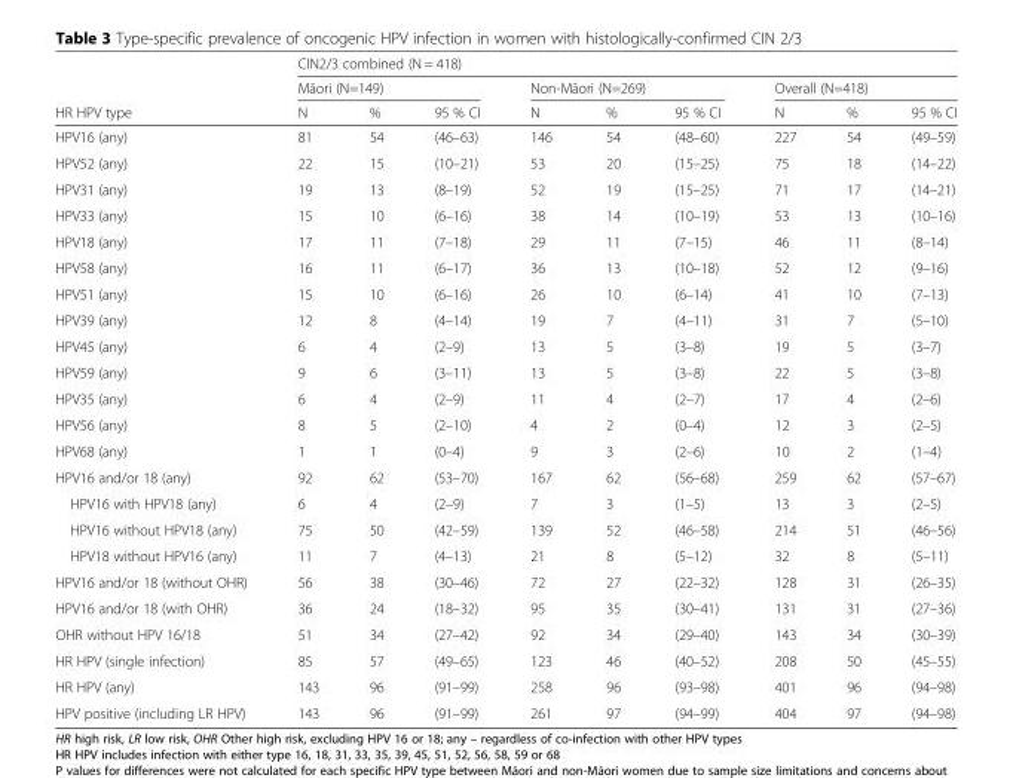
<table><thead><tr><td rowspan="3">HR HPV type</td><td colspan="9">CIN2/3 combined (N = 418)</td></tr><tr><td colspan="3">Māori (N=149)</td><td colspan="3">Non-Māori (N=269)</td><td colspan="3">Overall (N=418)</td></tr><tr><td>N</td><td>%</td><td>95 % CI</td><td>N</td><td>%</td><td>95 % CI</td><td>N</td><td>%</td><td>95 % CI</td></tr></thead><tbody><tr><td>HPV16 (any)</td><td>81</td><td>54</td><td>(46–63)</td><td>146</td><td>54</td><td>(48–60)</td><td>227</td><td>54</td><td>(49–59)</td></tr><tr><td>HPV52 (any)</td><td>22</td><td>15</td><td>(10–21)</td><td>53</td><td>20</td><td>(15–25)</td><td>75</td><td>18</td><td>(14–22)</td></tr><tr><td>HPV31 (any)</td><td>19</td><td>13</td><td>(8–19)</td><td>52</td><td>19</td><td>(15–25)</td><td>71</td><td>17</td><td>(14–21)</td></tr><tr><td>HPV33 (any)</td><td>15</td><td>10</td><td>(6–16)</td><td>38</td><td>14</td><td>(10–19)</td><td>53</td><td>13</td><td>(10–16)</td></tr><tr><td>HPV18 (any)</td><td>17</td><td>11</td><td>(7–18)</td><td>29</td><td>11</td><td>(7–15)</td><td>46</td><td>11</td><td>(8–14)</td></tr><tr><td>HPV58 (any)</td><td>16</td><td>11</td><td>(6–17)</td><td>36</td><td>13</td><td>(10–18)</td><td>52</td><td>12</td><td>(9–16)</td></tr><tr><td>HPV51 (any)</td><td>15</td><td>10</td><td>(6–16)</td><td>26</td><td>10</td><td>(6–14)</td><td>41</td><td>10</td><td>(7–13)</td></tr><tr><td>HPV39 (any)</td><td>12</td><td>8</td><td>(4–14)</td><td>19</td><td>7</td><td>(4–11)</td><td>31</td><td>7</td><td>(5–10)</td></tr><tr><td>HPV45 (any)</td><td>6</td><td>4</td><td>(2–9)</td><td>13</td><td>5</td><td>(3–8)</td><td>19</td><td>5</td><td>(3–7)</td></tr><tr><td>HPV59 (any)</td><td>9</td><td>6</td><td>(3–11)</td><td>13</td><td>5</td><td>(3–8)</td><td>22</td><td>5</td><td>(3–8)</td></tr><tr><td>HPV35 (any)</td><td>6</td><td>4</td><td>(2–9)</td><td>11</td><td>4</td><td>(2–7)</td><td>17</td><td>4</td><td>(2–6)</td></tr><tr><td>HPV56 (any)</td><td>8</td><td>5</td><td>(2–10)</td><td>4</td><td>2</td><td>(0–4)</td><td>12</td><td>3</td><td>(2–5)</td></tr><tr><td>HPV68 (any)</td><td>1</td><td>1</td><td>(0–4)</td><td>9</td><td>3</td><td>(2–6)</td><td>10</td><td>2</td><td>(1–4)</td></tr><tr><td>HPV16 and/or 18 (any)</td><td>92</td><td>62</td><td>(53–70)</td><td>167</td><td>62</td><td>(56–68)</td><td>259</td><td>62</td><td>(57–67)</td></tr><tr><td>HPV16 with HPV18 (any)</td><td>6</td><td>4</td><td>(2–9)</td><td>7</td><td>3</td><td>(1–5)</td><td>13</td><td>3</td><td>(2–5)</td></tr><tr><td>HPV16 without HPV18 (any)</td><td>75</td><td>50</td><td>(42–59)</td><td>139</td><td>52</td><td>(46–58)</td><td>214</td><td>51</td><td>(46–56)</td></tr><tr><td>HPV18 without HPV16 (any)</td><td>11</td><td>7</td><td>(4–13)</td><td>21</td><td>8</td><td>(5–12)</td><td>32</td><td>8</td><td>(5–11)</td></tr><tr><td>HPV16 and/or 18 (without OHR)</td><td>56</td><td>38</td><td>(30–46)</td><td>72</td><td>27</td><td>(22–32)</td><td>128</td><td>31</td><td>(26–35)</td></tr><tr><td>HPV16 and/or 18 (with OHR)</td><td>36</td><td>24</td><td>(18–32)</td><td>95</td><td>35</td><td>(30–41)</td><td>131</td><td>31</td><td>(27–36)</td></tr><tr><td>OHR without HPV 16/18</td><td>51</td><td>34</td><td>(27–42)</td><td>92</td><td>34</td><td>(29–40)</td><td>143</td><td>34</td><td>(30–39)</td></tr><tr><td>HR HPV (single infection)</td><td>85</td><td>57</td><td>(49–65)</td><td>123</td><td>46</td><td>(40–52)</td><td>208</td><td>50</td><td>(45–55)</td></tr><tr><td>HR HPV (any)</td><td>143</td><td>96</td><td>(91–99)</td><td>258</td><td>96</td><td>(93–98)</td><td>401</td><td>96</td><td>(94–98)</td></tr><tr><td>HPV positive (including LR HPV)</td><td>143</td><td>96</td><td>(91–99)</td><td>261</td><td>97</td><td>(94–99)</td><td>404</td><td>97</td><td>(94–98)</td></tr></tbody></table>